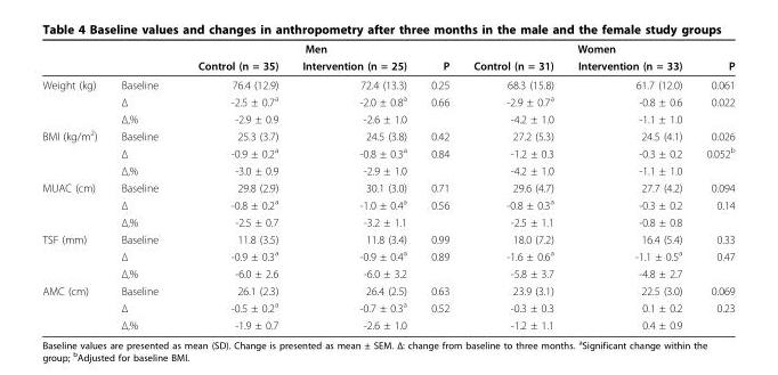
<table><thead><tr><td rowspan="2"></td><td rowspan="2"></td><td colspan="3">Men</td><td colspan="3">Women</td></tr><tr><td>Control (n = 35)</td><td>Intervention (n = 25)</td><td>P</td><td>Control (n = 31)</td><td>Intervention (n = 33)</td><td>P</td></tr></thead><tbody><tr><td rowspan="3">Weight (kg)</td><td>Baseline</td><td>76.4 (12.9)</td><td>72.4 (13.3)</td><td>0.25</td><td>68.3 (15.8)</td><td>61.7 (12.0)</td><td>0.061</td></tr><tr><td>Δ</td><td>-2.5 ± 0.7<sup>a</sup></td><td>-2.0 ± 0.8<sup>a</sup></td><td>0.66</td><td>-2.9 ± 0.7<sup>a</sup></td><td>-0.8 ± 0.6</td><td>0.022</td></tr><tr><td>Δ,%</td><td>-2.9 ± 0.9</td><td>-2.6 ± 1.0</td><td></td><td>-4.2 ± 1.0</td><td>-1.1 ± 1.0</td><td></td></tr><tr><td rowspan="3">BMI (kg/m<sup>2</sup>)</td><td>Baseline</td><td>25.3 (3.7)</td><td>24.5 (3.8)</td><td>0.42</td><td>27.2 (5.3)</td><td>24.5 (4.1)</td><td>0.026</td></tr><tr><td>Δ</td><td>-0.9 ± 0.2<sup>a</sup></td><td>-0.8 ± 0.3<sup>a</sup></td><td>0.84</td><td>-1.2 ± 0.3</td><td>-0.3 ± 0.2</td><td>0.052<sup>b</sup></td></tr><tr><td>Δ,%</td><td>-3.0 ± 0.9</td><td>-2.9 ± 1.0</td><td></td><td>-4.2 ± 1.0</td><td>-1.1 ± 1.0</td><td></td></tr><tr><td rowspan="3">MUAC (cm)</td><td>Baseline</td><td>29.8 (2.9)</td><td>30.1 (3.0)</td><td>0.71</td><td>29.6 (4.7)</td><td>27.7 (4.2)</td><td>0.094</td></tr><tr><td>Δ</td><td>-0.8 ± 0.2<sup>a</sup></td><td>-1.0 ± 0.4<sup>a</sup></td><td>0.56</td><td>-0.8 ± 0.3<sup>a</sup></td><td>-0.3 ± 0.2</td><td>0.14</td></tr><tr><td>Δ,%</td><td>-2.5 ± 0.7</td><td>-3.2 ± 1.1</td><td></td><td>-2.5 ± 1.1</td><td>-0.8 ± 0.8</td><td></td></tr><tr><td rowspan="3">TSF (mm)</td><td>Baseline</td><td>11.8 (3.5)</td><td>11.8 (3.4)</td><td>0.99</td><td>18.0 (7.2)</td><td>16.4 (5.4)</td><td>0.33</td></tr><tr><td>Δ</td><td>-0.9 ± 0.3<sup>a</sup></td><td>-0.9 ± 0.4<sup>a</sup></td><td>0.89</td><td>-1.6 ± 0.6<sup>a</sup></td><td>-1.1 ± 0.5<sup>a</sup></td><td>0.47</td></tr><tr><td>Δ,%</td><td>-6.0 ± 2.6</td><td>-6.0 ± 3.2</td><td></td><td>-5.8 ± 3.7</td><td>-4.8 ± 2.7</td><td></td></tr><tr><td rowspan="3">AMC (cm)</td><td>Baseline</td><td>26.1 (2.3)</td><td>26.4 (2.5)</td><td>0.63</td><td>23.9 (3.1)</td><td>22.5 (3.0)</td><td>0.069</td></tr><tr><td>Δ</td><td>-0.5 ± 0.2<sup>a</sup></td><td>-0.7 ± 0.3<sup>a</sup></td><td>0.52</td><td>-0.3 ± 0.3</td><td>0.1 ± 0.2</td><td>0.23</td></tr><tr><td>Δ,%</td><td>-1.9 ± 0.7</td><td>-2.6 ± 1.0</td><td></td><td>-1.2 ± 1.1</td><td>0.4 ± 0.9</td><td></td></tr></tbody></table>